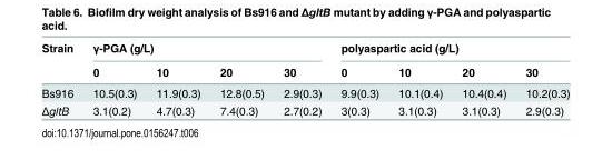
<table><thead><tr><td rowspan="2">Strain</td><td colspan="4">γ-PGA (g/L)</td><td colspan="4">polyaspartic acid (g/L)</td></tr><tr><td>0</td><td>10</td><td>20</td><td>30</td><td>0</td><td>10</td><td>20</td><td>30</td></tr></thead><tbody><tr><td>Bs916</td><td>10.5(0.3)</td><td>11.9(0.3)</td><td>12.8(0.5)</td><td>2.9(0.3)</td><td>9.9(0.3)</td><td>10.1(0.4)</td><td>10.4(0.4)</td><td>10.2(0.3)</td></tr><tr><td>ΔgltB</td><td>3.1(0.2)</td><td>4.7(0.3)</td><td>7.4(0.3)</td><td>2.7(0.2)</td><td>3(0.3)</td><td>3.1(0.3)</td><td>3.1(0.3)</td><td>2.9(0.3)</td></tr></tbody></table>